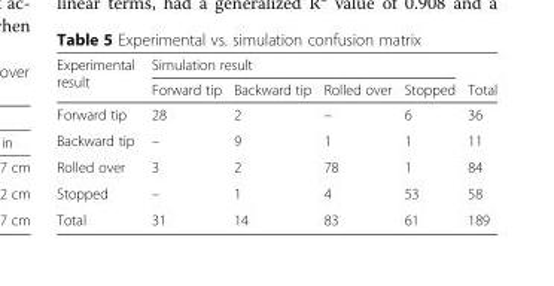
<table><thead><tr><td rowspan="2">Experimental result</td><td colspan="4">Simulation result</td><td rowspan="2">Total</td></tr><tr><td>Forward tip</td><td>Backward tip</td><td>Rolled over</td><td>Stopped</td></tr></thead><tbody><tr><td>Forward tip</td><td>28</td><td>2</td><td>–</td><td>6</td><td>36</td></tr><tr><td>Backward tip</td><td>–</td><td>9</td><td>1</td><td>1</td><td>11</td></tr><tr><td>Rolled over</td><td>3</td><td>2</td><td>78</td><td>1</td><td>84</td></tr><tr><td>Stopped</td><td>–</td><td>1</td><td>4</td><td>53</td><td>58</td></tr><tr><td>Total</td><td>31</td><td>14</td><td>83</td><td>61</td><td>189</td></tr></tbody></table>